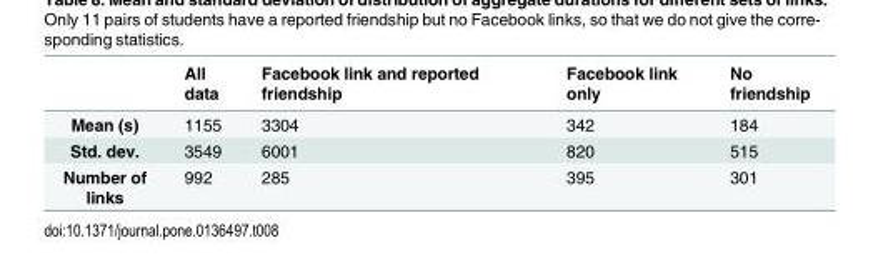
<table><thead><tr><td></td><td>All data</td><td>Facebook link and reported friendship</td><td>Facebook link only</td><td>No friendship</td></tr></thead><tbody><tr><td>Mean (s)</td><td>1155</td><td>3304</td><td>342</td><td>184</td></tr><tr><td>Std. dev.</td><td>3549</td><td>6001</td><td>820</td><td>515</td></tr><tr><td>Number of links</td><td>992</td><td>285</td><td>395</td><td>301</td></tr></tbody></table>